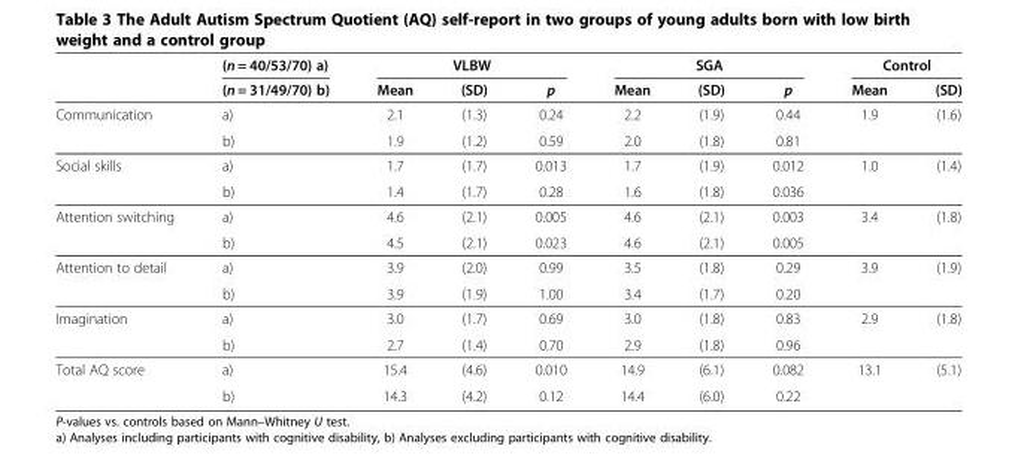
<table><thead><tr><td rowspan="2"></td><td rowspan="2">(n = 40/53/70) a) (n = 31/49/70) b)</td><td colspan="3">VLBW</td><td colspan="3">SGA</td><td colspan="2">Control</td></tr><tr><td>Mean</td><td>(SD)</td><td>p</td><td>Mean</td><td>(SD)</td><td>p</td><td>Mean</td><td>(SD)</td></tr></thead><tbody><tr><td rowspan="2">Communication</td><td>a)</td><td>2.1</td><td>(1.3)</td><td>0.24</td><td>2.2</td><td>(1.9)</td><td>0.44</td><td>1.9</td><td>(1.6)</td></tr><tr><td>b)</td><td>1.9</td><td>(1.2)</td><td>0.59</td><td>2.0</td><td>(1.8)</td><td>0.81</td><td></td><td></td></tr><tr><td rowspan="2">Social skills</td><td>a)</td><td>1.7</td><td>(1.7)</td><td>0.013</td><td>1.7</td><td>(1.9)</td><td>0.012</td><td>1.0</td><td>(1.4)</td></tr><tr><td>b)</td><td>1.4</td><td>(1.7)</td><td>0.28</td><td>1.6</td><td>(1.8)</td><td>0.036</td><td></td><td></td></tr><tr><td rowspan="2">Attention switching</td><td>a)</td><td>4.6</td><td>(2.1)</td><td>0.005</td><td>4.6</td><td>(2.1)</td><td>0.003</td><td>3.4</td><td>(1.8)</td></tr><tr><td>b)</td><td>4.5</td><td>(2.1)</td><td>0.023</td><td>4.6</td><td>(2.1)</td><td>0.005</td><td></td><td></td></tr><tr><td rowspan="2">Attention to detail</td><td>a)</td><td>3.9</td><td>(2.0)</td><td>0.99</td><td>3.5</td><td>(1.8)</td><td>0.29</td><td>3.9</td><td>(1.9)</td></tr><tr><td>b)</td><td>3.9</td><td>(1.9)</td><td>1.00</td><td>3.4</td><td>(1.7)</td><td>0.20</td><td></td><td></td></tr><tr><td rowspan="2">Imagination</td><td>a)</td><td>3.0</td><td>(1.7)</td><td>0.69</td><td>3.0</td><td>(1.8)</td><td>0.83</td><td>2.9</td><td>(1.8)</td></tr><tr><td>b)</td><td>2.7</td><td>(1.4)</td><td>0.70</td><td>2.9</td><td>(1.8)</td><td>0.96</td><td></td><td></td></tr><tr><td rowspan="2">Total AQ score</td><td>a)</td><td>15.4</td><td>(4.6)</td><td>0.010</td><td>14.9</td><td>(6.1)</td><td>0.082</td><td>13.1</td><td>(5.1)</td></tr><tr><td>b)</td><td>14.3</td><td>(4.2)</td><td>0.12</td><td>14.4</td><td>(6.0)</td><td>0.22</td><td></td><td></td></tr></tbody></table>